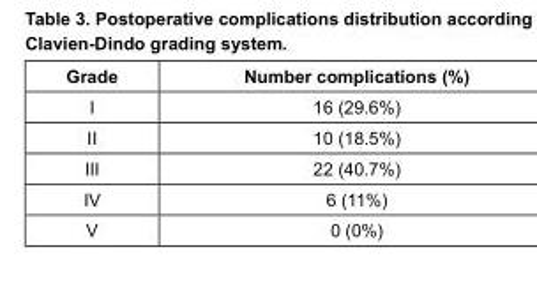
<table><thead><tr><td>Grade</td><td>Number complications (%)</td></tr></thead><tbody><tr><td>I</td><td>16 (29.6%)</td></tr><tr><td>II</td><td>10 (18.5%)</td></tr><tr><td>III</td><td>22 (40.7%)</td></tr><tr><td>IV</td><td>6 (11%)</td></tr><tr><td>V</td><td>0 (0%)</td></tr></tbody></table>